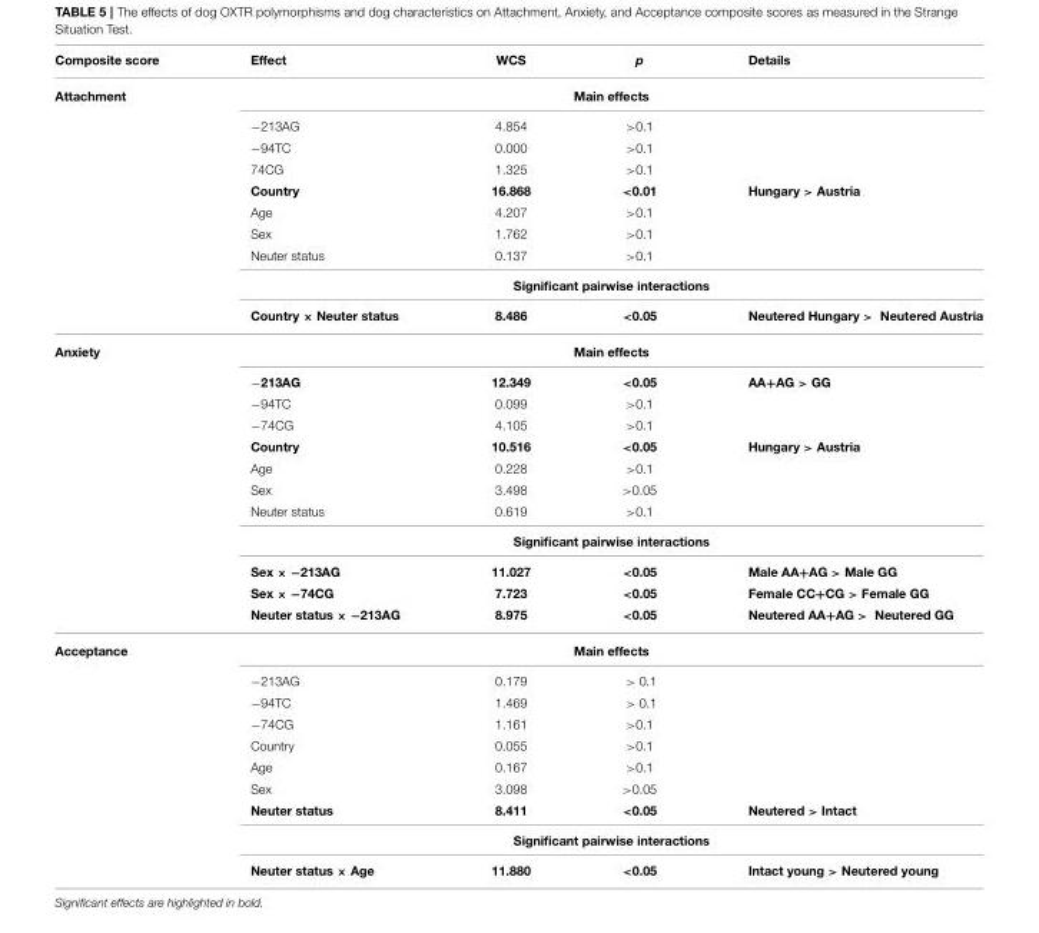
<table><thead><tr><td>Composite score</td><td>Effect</td><td>WCS</td><td>p</td><td>Details</td></tr></thead><tbody><tr><td rowspan="10">Attachment</td><td colspan="4">Main effects</td></tr><tr><td>−213AG</td><td>4.854</td><td>&gt;0.1</td><td></td></tr><tr><td>−94TC</td><td>0.000</td><td>&gt;0.1</td><td></td></tr><tr><td>74CG</td><td>1.325</td><td>&gt;0.1</td><td></td></tr><tr><td>Country</td><td>16.868</td><td>&lt;0.01</td><td>Hungary &gt; Austria</td></tr><tr><td>Age</td><td>4.207</td><td>&gt;0.1</td><td></td></tr><tr><td>Sex</td><td>1.762</td><td>&gt;0.1</td><td></td></tr><tr><td>Neuter status</td><td>0.137</td><td>&gt;0.1</td><td></td></tr><tr><td colspan="4">Significant pairwise interactions</td></tr><tr><td>Country × Neuter status</td><td>8.486</td><td>&lt;0.05</td><td>Neutered Hungary &gt; Neutered Austria</td></tr><tr><td rowspan="12">Anxiety</td><td colspan="4">Main effects</td></tr><tr><td>−213AG</td><td>12.349</td><td>&lt;0.05</td><td>AA+AG &gt; GG</td></tr><tr><td>−94TC</td><td>0.099</td><td>&gt;0.1</td><td></td></tr><tr><td>−74CG</td><td>4.105</td><td>&gt;0.1</td><td></td></tr><tr><td>Country</td><td>10.516</td><td>&lt;0.05</td><td>Hungary &gt; Austria</td></tr><tr><td>Age</td><td>0.228</td><td>&gt;0.1</td><td></td></tr><tr><td>Sex</td><td>3.498</td><td>&gt;0.05</td><td></td></tr><tr><td>Neuter status</td><td>0.619</td><td>&gt;0.1</td><td></td></tr><tr><td colspan="4">Significant pairwise interactions</td></tr><tr><td>Sex × −213AG</td><td>11.027</td><td>&lt;0.05</td><td>Male AA+AG &gt; Male GG</td></tr><tr><td>Sex × −74CG</td><td>7.723</td><td>&lt;0.05</td><td>Female CC+CG &gt; Female GG</td></tr><tr><td>Neuter status × −213AG</td><td>8.975</td><td>&lt;0.05</td><td>Neutered AA+AG &gt; Neutered GG</td></tr><tr><td rowspan="10">Acceptance</td><td colspan="4">Main effects</td></tr><tr><td>−213AG</td><td>0.179</td><td>&gt; 0.1</td><td></td></tr><tr><td>−94TC</td><td>1.469</td><td>&gt; 0.1</td><td></td></tr><tr><td>−74CG</td><td>1.161</td><td>&gt;0.1</td><td></td></tr><tr><td>Country</td><td>0.055</td><td>&gt;0.1</td><td></td></tr><tr><td>Age</td><td>0.167</td><td>&gt;0.1</td><td></td></tr><tr><td>Sex</td><td>3.098</td><td>&gt;0.05</td><td></td></tr><tr><td>Neuter status</td><td>8.411</td><td>&lt;0.05</td><td>Neutered &gt; Intact</td></tr><tr><td colspan="4">Significant pairwise interactions</td></tr><tr><td>Neuter status × Age</td><td>11.880</td><td>&lt;0.05</td><td>Intact young &gt; Neutered young</td></tr></tbody></table>